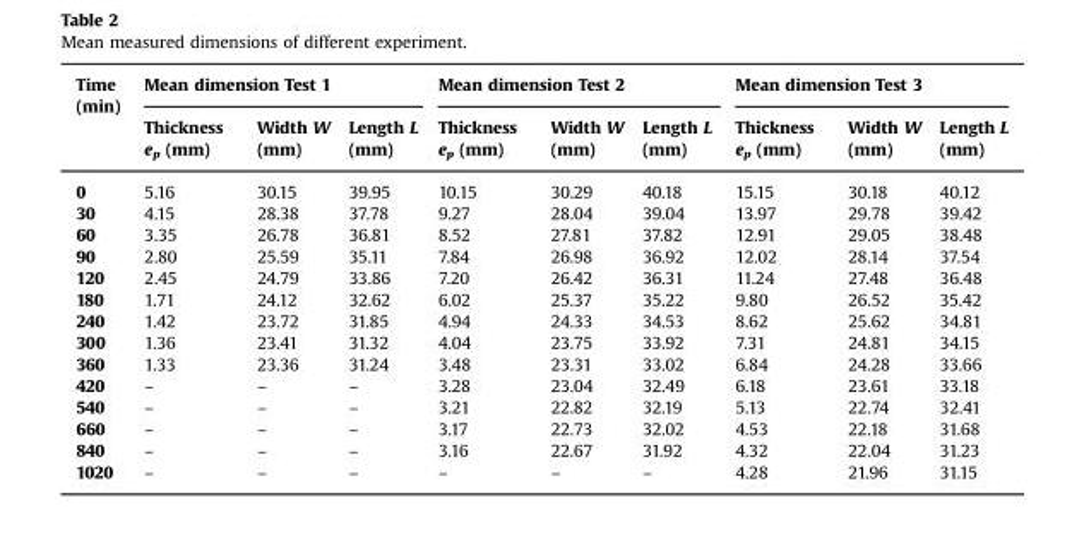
<table><thead><tr><td rowspan="2">Time (min)</td><td colspan="3">Mean dimension Test 1</td><td colspan="3">Mean dimension Test 2</td><td colspan="3">Mean dimension Test 3</td></tr><tr><td>Thickness e<sub>p</sub> (mm)</td><td>Width W (mm)</td><td>Length L (mm)</td><td>Thickness e<sub>p</sub> (mm)</td><td>Width W (mm)</td><td>Length L (mm)</td><td>Thickness e<sub>p</sub> (mm)</td><td>Width W (mm)</td><td>Length L (mm)</td></tr></thead><tbody><tr><td>0</td><td>5.16</td><td>30.15</td><td>39.95</td><td>10.15</td><td>30.29</td><td>40.18</td><td>15.15</td><td>30.18</td><td>40.12</td></tr><tr><td>30</td><td>4.15</td><td>28.38</td><td>37.78</td><td>9.27</td><td>28.04</td><td>39.04</td><td>13.97</td><td>29.78</td><td>39.42</td></tr><tr><td>60</td><td>3.35</td><td>26.78</td><td>36.81</td><td>8.52</td><td>27.81</td><td>37.82</td><td>12.91</td><td>29.05</td><td>38.48</td></tr><tr><td>90</td><td>2.80</td><td>25.59</td><td>35.11</td><td>7.84</td><td>26.98</td><td>36.92</td><td>12.02</td><td>28.14</td><td>37.54</td></tr><tr><td>120</td><td>2.45</td><td>24.79</td><td>33.86</td><td>7.20</td><td>26.42</td><td>36.31</td><td>11.24</td><td>27.48</td><td>36.48</td></tr><tr><td>180</td><td>1.71</td><td>24.12</td><td>32.62</td><td>6.02</td><td>25.37</td><td>35.22</td><td>9.80</td><td>26.52</td><td>35.42</td></tr><tr><td>240</td><td>1.42</td><td>23.72</td><td>31.85</td><td>4.94</td><td>24.33</td><td>34.53</td><td>8.62</td><td>25.62</td><td>34.81</td></tr><tr><td>300</td><td>1.36</td><td>23.41</td><td>31.32</td><td>4.04</td><td>23.75</td><td>33.92</td><td>7.31</td><td>24.81</td><td>34.15</td></tr><tr><td>360</td><td>1.33</td><td>23.36</td><td>31.24</td><td>3.48</td><td>23.31</td><td>33.02</td><td>6.84</td><td>24.28</td><td>33.66</td></tr><tr><td>420</td><td>–</td><td>–</td><td>–</td><td>3.28</td><td>23.04</td><td>32.49</td><td>6.18</td><td>23.61</td><td>33.18</td></tr><tr><td>540</td><td>–</td><td>–</td><td>–</td><td>3.21</td><td>22.82</td><td>32.19</td><td>5.13</td><td>22.74</td><td>32.41</td></tr><tr><td>660</td><td>–</td><td>–</td><td>–</td><td>3.17</td><td>22.73</td><td>32.02</td><td>4.53</td><td>22.18</td><td>31.68</td></tr><tr><td>840</td><td>–</td><td>–</td><td>–</td><td>3.16</td><td>22.67</td><td>31.92</td><td>4.32</td><td>22.04</td><td>31.23</td></tr><tr><td>1020</td><td>–</td><td>–</td><td>–</td><td>–</td><td>–</td><td>–</td><td>4.28</td><td>21.96</td><td>31.15</td></tr></tbody></table>